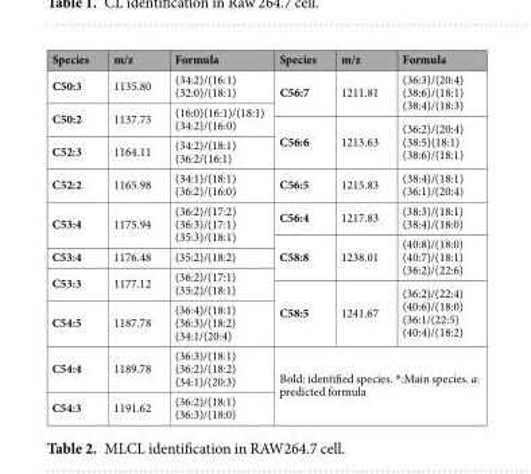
<table><thead><tr><td>Species</td><td>m/z</td><td>Formula</td><td>Species</td><td>m/z</td><td>Formula</td></tr></thead><tbody><tr><td>C50:3</td><td>1135.80</td><td>(34:2)/(16:1) (32:0)/(18:1)</td><td rowspan="2">C56:7</td><td rowspan="2">1211.81</td><td rowspan="2">(36:3)/(20:4) (38:6)/(18:1) (38:4)/(18:3)</td></tr><tr><td rowspan="2">C50:2</td><td rowspan="2">1137.73</td><td rowspan="2">(16:0)(16:1)/(18:1) (34:2)/(16:0)</td></tr><tr><td rowspan="2">C56:6</td><td rowspan="2">1213.63</td><td rowspan="2">(36:2)/(20:4) (38:5)(18:1) (38:6)/(18:1)</td></tr><tr><td>C52:3</td><td>1164.11</td><td>(34:2)/(18:1) (36:2/(16:1)</td></tr><tr><td>C52:2</td><td>1165.98</td><td>(34:1)/(18:1) (36:2)/(16:0)</td><td>C56:5</td><td>1215.83</td><td>(38:4)/(18:1) (36:1)/(20:4)</td></tr><tr><td rowspan="2">C53:4</td><td rowspan="2">1175.94</td><td rowspan="2">(36:2)/(17:2) (36:3)/(17:1) (35:3)/(18:1)</td><td>C56:4</td><td>1217.83</td><td>(38:3)/(18:1) (38:4)/(18:0)</td></tr><tr><td rowspan="3">C58:8</td><td rowspan="3">1238.01</td><td rowspan="3">(40:8)/(18:0) (40:7)/(18:1) (36:2)/(22:6)</td></tr><tr><td>C53:4</td><td>1176.48</td><td>(35:2)/(18:2)</td></tr><tr><td rowspan="2">C53:3</td><td rowspan="2">1177.12</td><td rowspan="2">(36:2)/(17:1) (35:2)/(18:1)</td></tr><tr><td rowspan="2">C58:5</td><td rowspan="2">1241.67</td><td rowspan="2">(36:2)/(22:4) (40:6)/(18:0) (36:1/(22:5) (40:4)/(18:2)</td></tr><tr><td>C54:5</td><td>1187.78</td><td>(36:4)/(18:1) (36:3)/(18:2) (34:1/(20:4)</td></tr><tr><td>C54:4</td><td>1189.78</td><td>(36:3)/(18:1) (36:2)/(18:2) (34:1)/(20:3)</td><td rowspan="2" colspan="3">Bold: identified species. *:Main species. a: predicted formula</td></tr><tr><td>C54:3</td><td>1191.62</td><td>(36:2)/(18:1) (36:3)/(18:0)</td></tr></tbody></table>